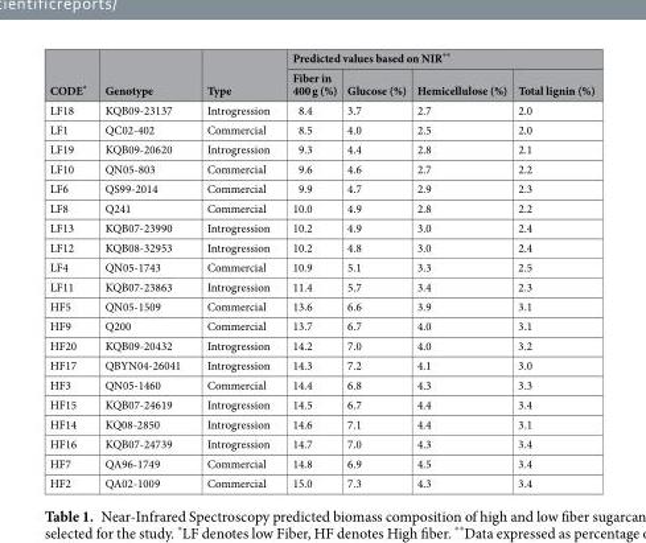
<table><thead><tr><td rowspan="2">CODE*</td><td rowspan="2">Genotype</td><td rowspan="2">Type</td><td colspan="4">Predicted values based on NIR**</td></tr><tr><td>Fiber in 400 g (%)</td><td>Glucose (%)</td><td>Hemicellulose (%)</td><td>Total lignin (%)</td></tr></thead><tbody><tr><td>LF18</td><td>KQB09-23137</td><td>Introgression</td><td>8.4</td><td>3.7</td><td>2.7</td><td>2.0</td></tr><tr><td>LF1</td><td>QC02-402</td><td>Commercial</td><td>8.5</td><td>4.0</td><td>2.5</td><td>2.0</td></tr><tr><td>LF19</td><td>KQB09-20620</td><td>Introgression</td><td>9.3</td><td>4.4</td><td>2.8</td><td>2.1</td></tr><tr><td>LF10</td><td>QN05-803</td><td>Commercial</td><td>9.6</td><td>4.6</td><td>2.7</td><td>2.2</td></tr><tr><td>LF6</td><td>QS99-2014</td><td>Commercial</td><td>9.9</td><td>4.7</td><td>2.9</td><td>2.3</td></tr><tr><td>LF8</td><td>Q241</td><td>Commercial</td><td>10.0</td><td>4.9</td><td>2.8</td><td>2.2</td></tr><tr><td>LF13</td><td>KQB07-23990</td><td>Introgression</td><td>10.2</td><td>4.9</td><td>3.0</td><td>2.4</td></tr><tr><td>LF12</td><td>KQB08-32953</td><td>Introgression</td><td>10.2</td><td>4.8</td><td>3.0</td><td>2.4</td></tr><tr><td>LF4</td><td>QN05-1743</td><td>Commercial</td><td>10.9</td><td>5.1</td><td>3.3</td><td>2.5</td></tr><tr><td>LF11</td><td>KQB07-23863</td><td>Introgression</td><td>11.4</td><td>5.7</td><td>3.4</td><td>2.3</td></tr><tr><td>HF5</td><td>QN05-1509</td><td>Commercial</td><td>13.6</td><td>6.6</td><td>3.9</td><td>3.1</td></tr><tr><td>HF9</td><td>Q200</td><td>Commercial</td><td>13.7</td><td>6.7</td><td>4.0</td><td>3.1</td></tr><tr><td>HF20</td><td>KQB09-20432</td><td>Introgression</td><td>14.2</td><td>7.0</td><td>4.0</td><td>3.2</td></tr><tr><td>HF17</td><td>QBYN04-26041</td><td>Introgression</td><td>14.3</td><td>7.2</td><td>4.1</td><td>3.0</td></tr><tr><td>HF3</td><td>QN05-1460</td><td>Commercial</td><td>14.4</td><td>6.8</td><td>4.3</td><td>3.3</td></tr><tr><td>HF15</td><td>KQB07-24619</td><td>Introgression</td><td>14.5</td><td>6.7</td><td>4.4</td><td>3.4</td></tr><tr><td>HF14</td><td>KQ08-2850</td><td>Introgression</td><td>14.6</td><td>7.1</td><td>4.4</td><td>3.1</td></tr><tr><td>HF16</td><td>KQB07-24739</td><td>Introgression</td><td>14.7</td><td>7.0</td><td>4.3</td><td>3.4</td></tr><tr><td>HF7</td><td>QA96-1749</td><td>Commercial</td><td>14.8</td><td>6.9</td><td>4.5</td><td>3.4</td></tr><tr><td>HF2</td><td>QA02-1009</td><td>Commercial</td><td>15.0</td><td>7.3</td><td>4.3</td><td>3.4</td></tr></tbody></table>